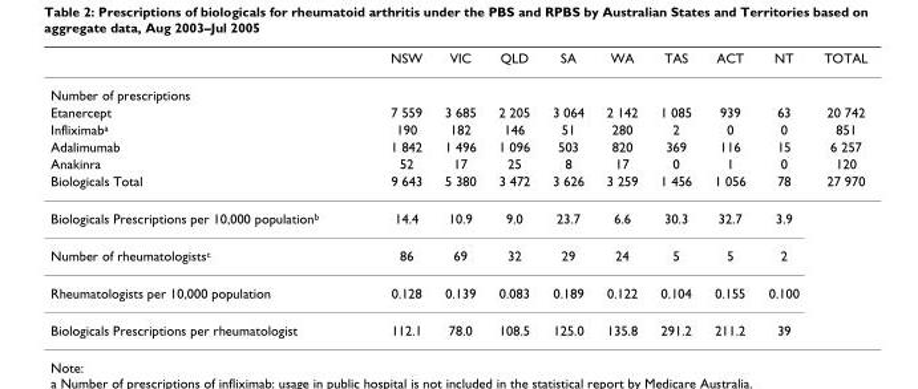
<table><thead><tr><td></td><td>NSW</td><td>VIC</td><td>QLD</td><td>SA</td><td>WA</td><td>TAS</td><td>ACT</td><td>NT</td><td>TOTAL</td></tr></thead><tbody><tr><td colspan="10">Number of prescriptions</td></tr><tr><td>Etanercept</td><td>7 559</td><td>3 685</td><td>2 205</td><td>3 064</td><td>2 142</td><td>1 085</td><td>939</td><td>63</td><td>20 742</td></tr><tr><td>Infliximab<sup>a</sup></td><td>190</td><td>182</td><td>146</td><td>51</td><td>280</td><td>2</td><td>0</td><td>0</td><td>851</td></tr><tr><td>Adalimumab</td><td>1 842</td><td>1 496</td><td>1 096</td><td>503</td><td>820</td><td>369</td><td>116</td><td>15</td><td>6 257</td></tr><tr><td>Anakinra</td><td>52</td><td>17</td><td>25</td><td>8</td><td>17</td><td>0</td><td>1</td><td>0</td><td>120</td></tr><tr><td>Biologicals Total</td><td>9 643</td><td>5 380</td><td>3 472</td><td>3 626</td><td>3 259</td><td>1 456</td><td>1 056</td><td>78</td><td>27 970</td></tr><tr><td>Biologicals Prescriptions per 10,000 population<sup>b</sup></td><td>14.4</td><td>10.9</td><td>9.0</td><td>23.7</td><td>6.6</td><td>30.3</td><td>32.7</td><td>3.9</td><td></td></tr><tr><td>Number of rheumatologists<sup>c</sup></td><td>86</td><td>69</td><td>32</td><td>29</td><td>24</td><td>5</td><td>5</td><td>2</td><td></td></tr><tr><td>Rheumatologists per 10,000 population</td><td>0.128</td><td>0.139</td><td>0.083</td><td>0.189</td><td>0.122</td><td>0.104</td><td>0.155</td><td>0.100</td><td></td></tr><tr><td>Biologicals Prescriptions per rheumatologist</td><td>112.1</td><td>78.0</td><td>108.5</td><td>125.0</td><td>135.8</td><td>291.2</td><td>211.2</td><td>39</td><td></td></tr></tbody></table>